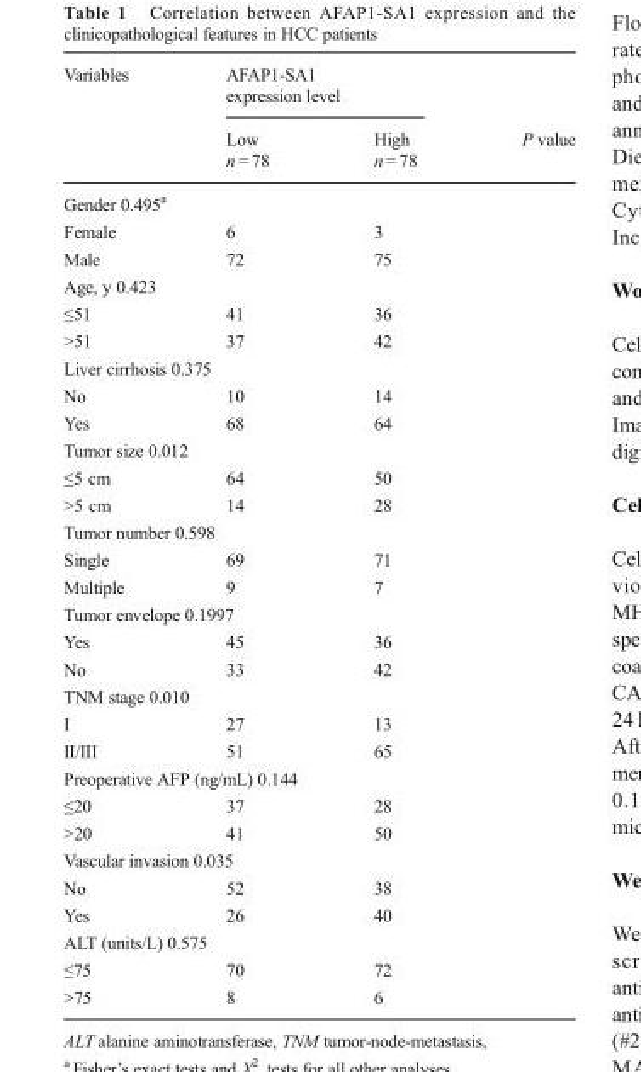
<table><thead><tr><td rowspan="3">Variables</td><td colspan="2">AFAP1-SA1 expression level</td><td rowspan="3">P value</td></tr><tr><td rowspan="2">Low n = 78</td><td rowspan="2">High n = 78</td></tr><tr></tr></thead><tbody><tr><td colspan="4">Gender 0.495a</td></tr><tr><td>Female</td><td>6</td><td>3</td><td></td></tr><tr><td>Male</td><td>72</td><td>75</td><td></td></tr><tr><td colspan="4">Age, y 0.423</td></tr><tr><td>≤51</td><td>41</td><td>36</td><td></td></tr><tr><td>&gt;51</td><td>37</td><td>42</td><td></td></tr><tr><td colspan="4">Liver cirrhosis 0.375</td></tr><tr><td>No</td><td>10</td><td>14</td><td></td></tr><tr><td>Yes</td><td>68</td><td>64</td><td></td></tr><tr><td colspan="4">Tumor size 0.012</td></tr><tr><td>≤5 cm</td><td>64</td><td>50</td><td></td></tr><tr><td>&gt;5 cm</td><td>14</td><td>28</td><td></td></tr><tr><td colspan="4">Tumor number 0.598</td></tr><tr><td>Single</td><td>69</td><td>71</td><td></td></tr><tr><td>Multiple</td><td>9</td><td>7</td><td></td></tr><tr><td colspan="4">Tumor envelope 0.1997</td></tr><tr><td>Yes</td><td>45</td><td>36</td><td></td></tr><tr><td>No</td><td>33</td><td>42</td><td></td></tr><tr><td colspan="4">TNM stage 0.010</td></tr><tr><td>I</td><td>27</td><td>13</td><td></td></tr><tr><td>II/III</td><td>51</td><td>65</td><td></td></tr><tr><td colspan="4">Preoperative AFP (ng/mL) 0.144</td></tr><tr><td>≤20</td><td>37</td><td>28</td><td></td></tr><tr><td>&gt;20</td><td>41</td><td>50</td><td></td></tr><tr><td colspan="4">Vascular invasion 0.035</td></tr><tr><td>No</td><td>52</td><td>38</td><td></td></tr><tr><td>Yes</td><td>26</td><td>40</td><td></td></tr><tr><td colspan="4">ALT (units/L) 0.575</td></tr><tr><td>≤75</td><td>70</td><td>72</td><td></td></tr><tr><td>&gt;75</td><td>8</td><td>6</td><td></td></tr></tbody></table>